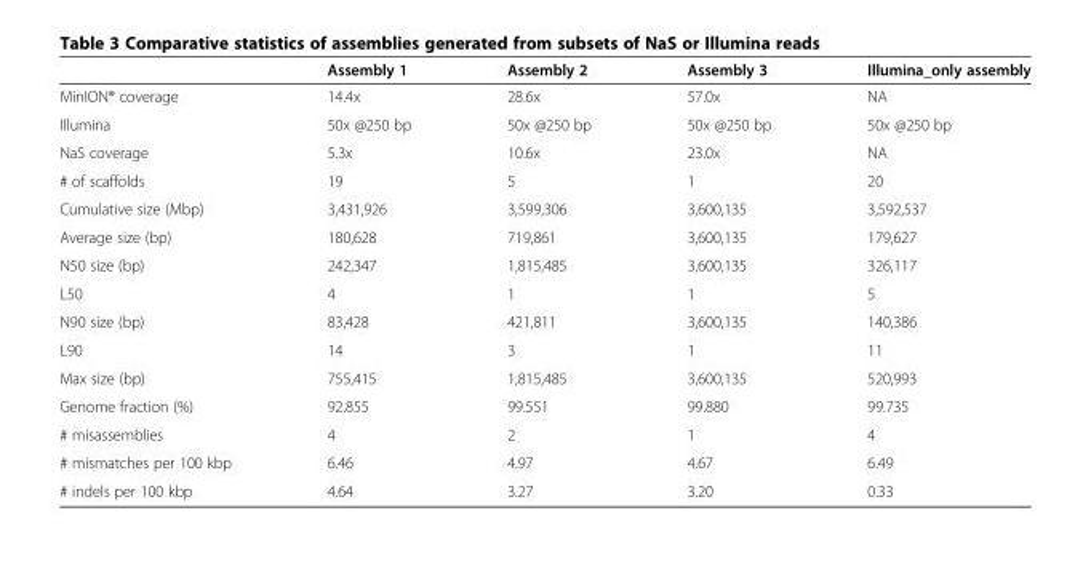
<table><thead><tr><td></td><td>Assembly 1</td><td>Assembly 2</td><td>Assembly 3</td><td>Illumina_only assembly</td></tr></thead><tbody><tr><td>MinION® coverage</td><td>14.4x</td><td>28.6x</td><td>57.0x</td><td>NA</td></tr><tr><td>Illumina</td><td>50x @250 bp</td><td>50x @250 bp</td><td>50x @250 bp</td><td>50x @250 bp</td></tr><tr><td>NaS coverage</td><td>5.3x</td><td>10.6x</td><td>23.0x</td><td>NA</td></tr><tr><td># of scaffolds</td><td>19</td><td>5</td><td>1</td><td>20</td></tr><tr><td>Cumulative size (Mbp)</td><td>3,431,926</td><td>3,599,306</td><td>3,600,135</td><td>3,592,537</td></tr><tr><td>Average size (bp)</td><td>180,628</td><td>719,861</td><td>3,600,135</td><td>179,627</td></tr><tr><td>N50 size (bp)</td><td>242,347</td><td>1,815,485</td><td>3,600,135</td><td>326,117</td></tr><tr><td>L50</td><td>4</td><td>1</td><td>1</td><td>5</td></tr><tr><td>N90 size (bp)</td><td>83,428</td><td>421,811</td><td>3,600,135</td><td>140,386</td></tr><tr><td>L90</td><td>14</td><td>3</td><td>1</td><td>11</td></tr><tr><td>Max size (bp)</td><td>755,415</td><td>1,815,485</td><td>3,600,135</td><td>520,993</td></tr><tr><td>Genome fraction (%)</td><td>92.855</td><td>99.551</td><td>99.880</td><td>99.735</td></tr><tr><td># misassemblies</td><td>4</td><td>2</td><td>1</td><td>4</td></tr><tr><td># mismatches per 100 kbp</td><td>6.46</td><td>4.97</td><td>4.67</td><td>6.49</td></tr><tr><td># indels per 100 kbp</td><td>4.64</td><td>3.27</td><td>3.20</td><td>0.33</td></tr></tbody></table>